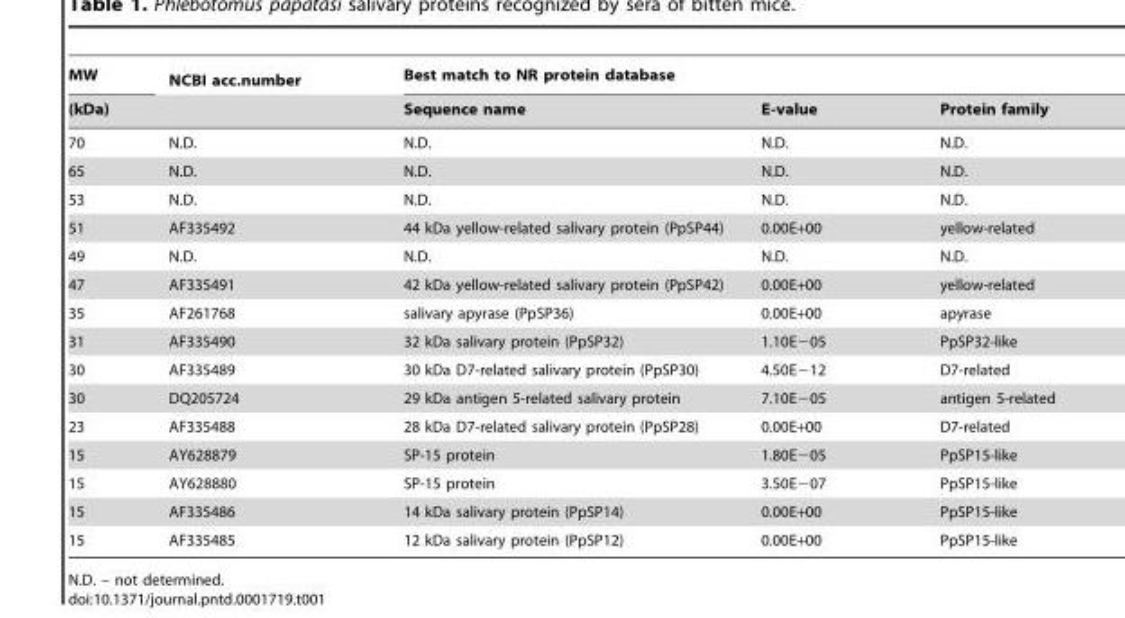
<table><thead><tr><td rowspan="2">MW (kDa)</td><td rowspan="2">NCBI acc.number</td><td colspan="3">Best match to NR protein database</td></tr><tr><td>Sequence name</td><td>E-value</td><td>Protein family</td></tr></thead><tbody><tr><td>70</td><td>N.D.</td><td>N.D.</td><td>N.D.</td><td>N.D.</td></tr><tr><td>65</td><td>N.D.</td><td>N.D.</td><td>N.D.</td><td>N.D.</td></tr><tr><td>53</td><td>N.D.</td><td>N.D.</td><td>N.D.</td><td>N.D.</td></tr><tr><td>51</td><td>AF335492</td><td>44 kDa yellow-related salivary protein (PpSP44)</td><td>0.00E+00</td><td>yellow-related</td></tr><tr><td>49</td><td>N.D.</td><td>N.D.</td><td>N.D.</td><td>N.D.</td></tr><tr><td>47</td><td>AF335491</td><td>42 kDa yellow-related salivary protein (PpSP42)</td><td>0.00E+00</td><td>yellow-related</td></tr><tr><td>35</td><td>AF261768</td><td>salivary apyrase (PpSP36)</td><td>0.00E+00</td><td>apyrase</td></tr><tr><td>31</td><td>AF335490</td><td>32 kDa salivary protein (PpSP32)</td><td>1.10E−05</td><td>PpSP32-like</td></tr><tr><td>30</td><td>AF335489</td><td>30 kDa D7-related salivary protein (PpSP30)</td><td>4.50E−12</td><td>D7-related</td></tr><tr><td>30</td><td>DQ205724</td><td>29 kDa antigen 5-related salivary protein</td><td>7.10E−05</td><td>antigen 5-related</td></tr><tr><td>23</td><td>AF335488</td><td>28 kDa D7-related salivary protein (PpSP28)</td><td>0.00E+00</td><td>D7-related</td></tr><tr><td>15</td><td>AY628879</td><td>SP-15 protein</td><td>1.80E−05</td><td>PpSP15-like</td></tr><tr><td>15</td><td>AY628880</td><td>SP-15 protein</td><td>3.50E−07</td><td>PpSP15-like</td></tr><tr><td>15</td><td>AF335486</td><td>14 kDa salivary protein (PpSP14)</td><td>0.00E+00</td><td>PpSP15-like</td></tr><tr><td>15</td><td>AF335485</td><td>12 kDa salivary protein (PpSP12)</td><td>0.00E+00</td><td>PpSP15-like</td></tr></tbody></table>